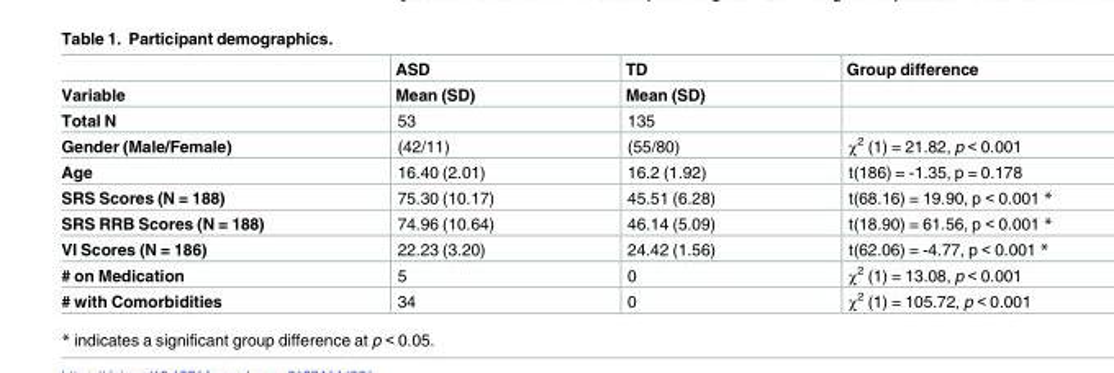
<table><thead><tr><td rowspan="2">Variable</td><td rowspan="2">ASD Mean (SD)</td><td rowspan="2">TD Mean (SD)</td><td rowspan="2">Group difference</td></tr><tr></tr></thead><tbody><tr><td>Total N</td><td>53</td><td>135</td><td></td></tr><tr><td>Gender (Male/Female)</td><td>(42/11)</td><td>(55/80)</td><td>χ<sup>2</sup> (1) = 21.82, p &lt; 0.001</td></tr><tr><td>Age</td><td>16.40 (2.01)</td><td>16.2 (1.92)</td><td>t(186) = -1.35, p = 0.178</td></tr><tr><td>SRS Scores (N = 188)</td><td>75.30 (10.17)</td><td>45.51 (6.28)</td><td>t(68.16) = 19.90, p &lt; 0.001 *</td></tr><tr><td>SRS RRB Scores (N = 188)</td><td>74.96 (10.64)</td><td>46.14 (5.09)</td><td>t(18.90) = 61.56, p &lt; 0.001 *</td></tr><tr><td>VI Scores (N = 186)</td><td>22.23 (3.20)</td><td>24.42 (1.56)</td><td>t(62.06) = -4.77, p &lt; 0.001 *</td></tr><tr><td># on Medication</td><td>5</td><td>0</td><td>χ<sup>2</sup> (1) = 13.08, p &lt; 0.001</td></tr><tr><td># with Comorbidities</td><td>34</td><td>0</td><td>χ<sup>2</sup> (1) = 105.72, p &lt; 0.001</td></tr></tbody></table>